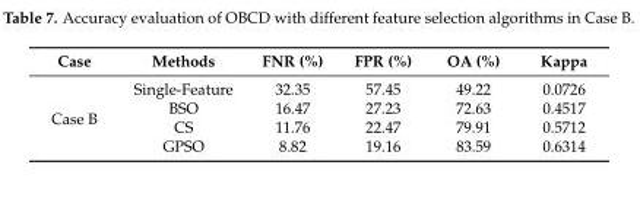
<table><thead><tr><td>Case</td><td>Methods</td><td>FNR (%)</td><td>FPR (%)</td><td>OA (%)</td><td>Kappa</td></tr></thead><tbody><tr><td rowspan="4">Case B</td><td>Single-Feature</td><td>32.35</td><td>57.45</td><td>49.22</td><td>0.0726</td></tr><tr><td>BSO</td><td>16.47</td><td>27.23</td><td>72.63</td><td>0.4517</td></tr><tr><td>CS</td><td>11.76</td><td>22.47</td><td>79.91</td><td>0.5712</td></tr><tr><td>GPSO</td><td>8.82</td><td>19.16</td><td>83.59</td><td>0.6314</td></tr></tbody></table>